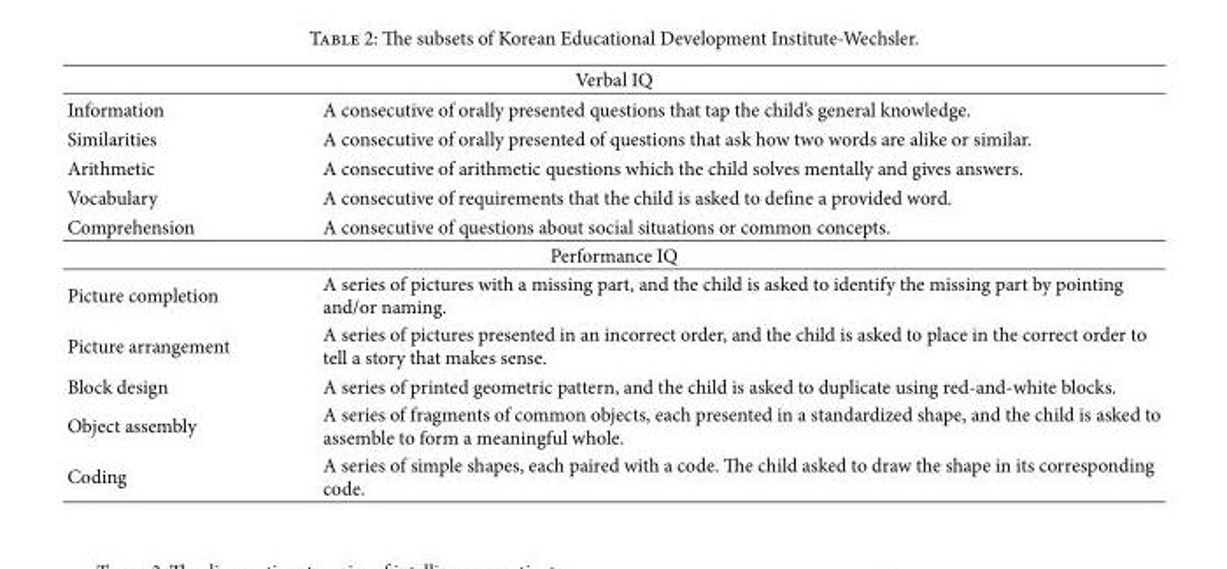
<table><thead><tr><td colspan="2">Verbal IQ</td></tr><tr><td>Information</td><td>A consecutive of orally presented questions that tap the child’s general knowledge.</td></tr></thead><tbody><tr><td>Similarities</td><td>A consecutive of orally presented of questions that ask how two words are alike or similar.</td></tr><tr><td>Arithmetic</td><td>A consecutive of arithmetic questions which the child solves mentally and gives answers.</td></tr><tr><td>Vocabulary</td><td>A consecutive of requirements that the child is asked to define a provided word.</td></tr><tr><td>Comprehension</td><td>A consecutive of questions about social situations or common concepts.</td></tr><tr><td colspan="2">Performance IQ</td></tr><tr><td>Picture completion</td><td>A series of pictures with a missing part, and the child is asked to identify the missing part by pointing and/or naming.</td></tr><tr><td>Picture arrangement</td><td>A series of pictures presented in an incorrect order, and the child is asked to place in the correct order to tell a story that makes sense.</td></tr><tr><td>Block design</td><td>A series of printed geometric pattern, and the child is asked to duplicate using red-and-white blocks.</td></tr><tr><td>Object assembly</td><td>A series of fragments of common objects, each presented in a standardized shape, and the child is asked to assemble to form a meaningful whole.</td></tr><tr><td>Coding</td><td>A series of simple shapes, each paired with a code. The child asked to draw the shape in its corresponding code.</td></tr></tbody></table>